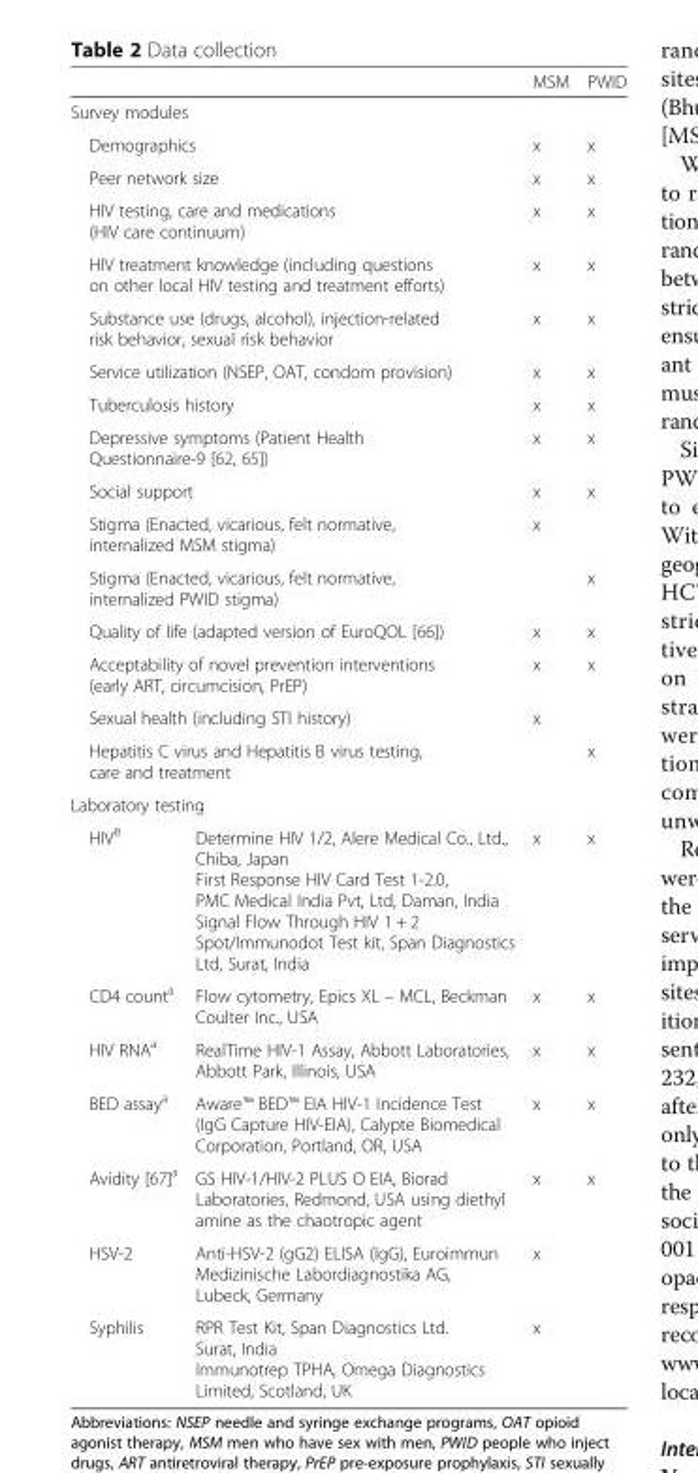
<table><thead><tr><td></td><td></td><td>MSM</td><td>PWID</td></tr></thead><tbody><tr><td colspan="4">Survey modules</td></tr><tr><td colspan="2">Demographics</td><td>x</td><td>x</td></tr><tr><td colspan="2">Peer network size</td><td>x</td><td>x</td></tr><tr><td colspan="2">HIV testing, care and medications (HIV care continuum)</td><td>x</td><td>x</td></tr><tr><td colspan="2">HIV treatment knowledge (including questions on other local HIV testing and treatment efforts)</td><td>x</td><td>x</td></tr><tr><td colspan="2">Substance use (drugs, alcohol), injection-related risk behavior, sexual risk behavior</td><td>x</td><td>x</td></tr><tr><td colspan="2">Service utilization (NSEP, OAT, condom provision)</td><td>x</td><td>x</td></tr><tr><td colspan="2">Tuberculosis history</td><td>x</td><td>x</td></tr><tr><td colspan="2">Depressive symptoms (Patient Health Questionnaire-9 [62, 65])</td><td>x</td><td>x</td></tr><tr><td colspan="2">Social support</td><td>x</td><td>x</td></tr><tr><td colspan="2">Stigma (Enacted, vicarious, felt normative, internalized MSM stigma)</td><td>x</td><td></td></tr><tr><td colspan="2">Stigma (Enacted, vicarious, felt normative, internalized PWID stigma)</td><td></td><td>x</td></tr><tr><td colspan="2">Quality of life (adapted version of EuroQOL [66])</td><td>x</td><td>x</td></tr><tr><td colspan="2">Acceptability of novel prevention interventions (early ART, circumcision, PrEP)</td><td>x</td><td>x</td></tr><tr><td colspan="2">Sexual health (including STI history)</td><td>x</td><td></td></tr><tr><td colspan="2">Hepatitis C virus and Hepatitis B virus testing, care and treatment</td><td></td><td>x</td></tr><tr><td colspan="4">Laboratory testing</td></tr><tr><td>HIV<sup>8</sup></td><td>Determine HIV 1/2, Alere Medical Co., Ltd., Chiba, Japan First Response HIV Card Test 1-2.0, PMC Medical India Pvt, Ltd, Daman, India Signal Flow Through HIV 1 + 2 Spot/Immunodot Test kit, Span Diagnostics Ltd, Surat, India</td><td>x</td><td>x</td></tr><tr><td>CD4 count<sup>a</sup></td><td>Flow cytometry, Epics XL – MCL, Beckman Coulter Inc., USA</td><td>x</td><td>x</td></tr><tr><td>HIV RNA<sup>a</sup></td><td>RealTime HIV-1 Assay, Abbott Laboratories, Abbott Park, Illinois, USA</td><td>x</td><td>x</td></tr><tr><td>BED assay<sup>a</sup></td><td>Aware™ BED™ EIA HIV-1 Incidence Test (IgG Capture HIV-EIA), Calypte Biomedical Corporation, Portland, OR, USA</td><td>x</td><td>x</td></tr><tr><td>Avidity [67]<sup>a</sup></td><td>GS HIV-1/HIV-2 PLUS O EIA, Biorad Laboratories, Redmond, USA using diethyl amine as the chaotropic agent</td><td>x</td><td>x</td></tr><tr><td>HSV-2</td><td>Anti-HSV-2 (gG2) ELISA (IgG), Euroimmun Medizinische Labordiagnostika AG, Lubeck, Germany</td><td>x</td><td></td></tr><tr><td>Syphilis</td><td>RPR Test Kit, Span Diagnostics Ltd. Surat, India Immunotrep TPHA, Omega Diagnostics Limited, Scotland, UK</td><td>x</td><td></td></tr></tbody></table>